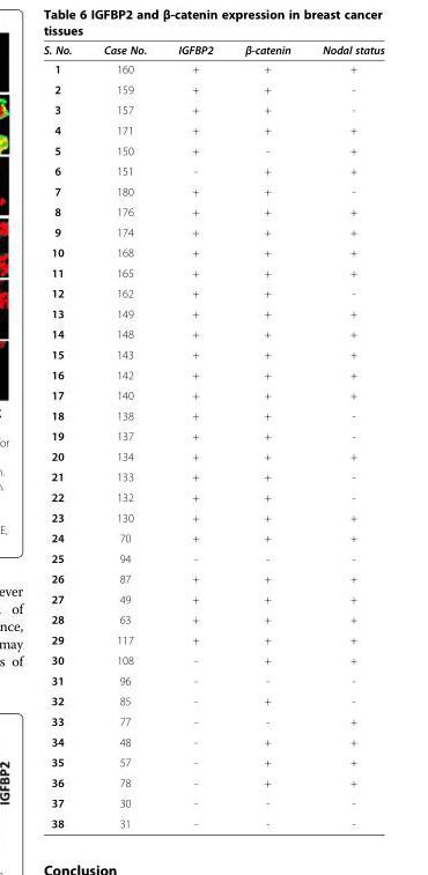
<table><thead><tr><td>S. No.</td><td>Case No.</td><td>IGFBP2</td><td>β-catenin</td><td>Nodal status</td></tr></thead><tbody><tr><td>1</td><td>160</td><td>+</td><td>+</td><td>+</td></tr><tr><td>2</td><td>159</td><td>+</td><td>+</td><td>-</td></tr><tr><td>3</td><td>157</td><td>+</td><td>+</td><td>-</td></tr><tr><td>4</td><td>171</td><td>+</td><td>+</td><td>+</td></tr><tr><td>5</td><td>150</td><td>+</td><td>-</td><td>+</td></tr><tr><td>6</td><td>151</td><td>-</td><td>+</td><td>+</td></tr><tr><td>7</td><td>180</td><td>+</td><td>+</td><td>-</td></tr><tr><td>8</td><td>176</td><td>+</td><td>+</td><td>+</td></tr><tr><td>9</td><td>174</td><td>+</td><td>+</td><td>+</td></tr><tr><td>10</td><td>168</td><td>+</td><td>+</td><td>+</td></tr><tr><td>11</td><td>165</td><td>+</td><td>+</td><td>+</td></tr><tr><td>12</td><td>162</td><td>+</td><td>+</td><td>-</td></tr><tr><td>13</td><td>149</td><td>+</td><td>+</td><td>+</td></tr><tr><td>14</td><td>148</td><td>+</td><td>+</td><td>+</td></tr><tr><td>15</td><td>143</td><td>+</td><td>+</td><td>+</td></tr><tr><td>16</td><td>142</td><td>+</td><td>+</td><td>+</td></tr><tr><td>17</td><td>140</td><td>+</td><td>+</td><td>+</td></tr><tr><td>18</td><td>138</td><td>+</td><td>+</td><td>-</td></tr><tr><td>19</td><td>137</td><td>+</td><td>+</td><td>-</td></tr><tr><td>20</td><td>134</td><td>+</td><td>+</td><td>+</td></tr><tr><td>21</td><td>133</td><td>+</td><td>+</td><td>-</td></tr><tr><td>22</td><td>132</td><td>+</td><td>+</td><td>-</td></tr><tr><td>23</td><td>130</td><td>+</td><td>+</td><td>+</td></tr><tr><td>24</td><td>70</td><td>+</td><td>+</td><td>+</td></tr><tr><td>25</td><td>94</td><td>-</td><td>-</td><td>-</td></tr><tr><td>26</td><td>87</td><td>+</td><td>+</td><td>+</td></tr><tr><td>27</td><td>49</td><td>+</td><td>+</td><td>+</td></tr><tr><td>28</td><td>63</td><td>+</td><td>+</td><td>+</td></tr><tr><td>29</td><td>117</td><td>+</td><td>+</td><td>+</td></tr><tr><td>30</td><td>108</td><td>-</td><td>+</td><td>+</td></tr><tr><td>31</td><td>96</td><td>-</td><td>-</td><td>-</td></tr><tr><td>32</td><td>85</td><td>-</td><td>+</td><td>-</td></tr><tr><td>33</td><td>77</td><td>-</td><td>-</td><td>+</td></tr><tr><td>34</td><td>48</td><td>-</td><td>+</td><td>+</td></tr><tr><td>35</td><td>57</td><td>-</td><td>+</td><td>+</td></tr><tr><td>36</td><td>78</td><td>-</td><td>+</td><td>+</td></tr><tr><td>37</td><td>30</td><td>-</td><td>-</td><td>-</td></tr><tr><td>38</td><td>31</td><td>-</td><td>-</td><td>-</td></tr></tbody></table>